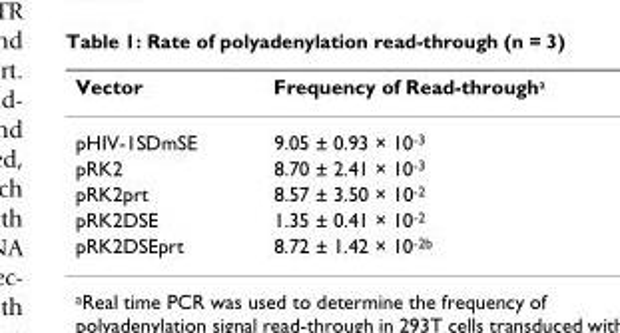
<table><thead><tr><td>Vector</td><td>Frequency of Read-through<sup>a</sup></td></tr></thead><tbody><tr><td>pHIV-1SDmSE</td><td>9.05 ± 0.93 × 10<sup>-3</sup></td></tr><tr><td>pRK2</td><td>8.70 ± 2.41 × 10<sup>-3</sup></td></tr><tr><td>pRK2prt</td><td>8.57 ± 3.50 × 10<sup>-2</sup></td></tr><tr><td>pRK2DSE</td><td>1.35 ± 0.41 × 10<sup>-2</sup></td></tr><tr><td>pRK2DSEprt</td><td>8.72 ± 1.42 × 10<sup>-2b</sup></td></tr></tbody></table>